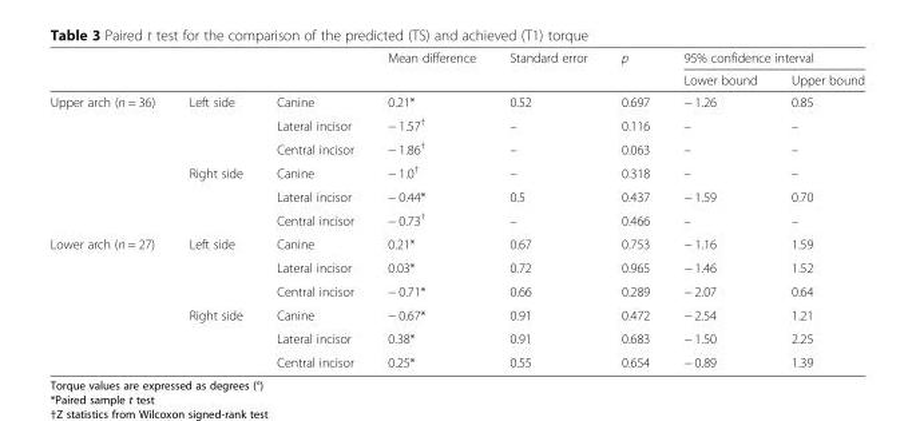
<table><thead><tr><td rowspan="2"></td><td rowspan="2"></td><td rowspan="2"></td><td rowspan="2">Mean difference</td><td rowspan="2">Standard error</td><td rowspan="2">p</td><td colspan="2">95% confidence interval</td></tr><tr><td>Lower bound</td><td>Upper bound</td></tr></thead><tbody><tr><td rowspan="6">Upper arch (n = 36)</td><td rowspan="3">Left side</td><td>Canine</td><td>0.21*</td><td>0.52</td><td>0.697</td><td>− 1.26</td><td>0.85</td></tr><tr><td>Lateral incisor</td><td>− 1.57<sup>†</sup></td><td>–</td><td>0.116</td><td>–</td><td>–</td></tr><tr><td>Central incisor</td><td>− 1.86<sup>†</sup></td><td>–</td><td>0.063</td><td>–</td><td>–</td></tr><tr><td rowspan="3">Right side</td><td>Canine</td><td>− 1.0<sup>†</sup></td><td>–</td><td>0.318</td><td>–</td><td>–</td></tr><tr><td>Lateral incisor</td><td>− 0.44*</td><td>0.5</td><td>0.437</td><td>− 1.59</td><td>0.70</td></tr><tr><td>Central incisor</td><td>− 0.73<sup>†</sup></td><td>–</td><td>0.466</td><td>–</td><td>–</td></tr><tr><td rowspan="6">Lower arch (n = 27)</td><td rowspan="3">Left side</td><td>Canine</td><td>0.21*</td><td>0.67</td><td>0.753</td><td>− 1.16</td><td>1.59</td></tr><tr><td>Lateral incisor</td><td>0.03*</td><td>0.72</td><td>0.965</td><td>− 1.46</td><td>1.52</td></tr><tr><td>Central incisor</td><td>− 0.71*</td><td>0.66</td><td>0.289</td><td>− 2.07</td><td>0.64</td></tr><tr><td rowspan="3">Right side</td><td>Canine</td><td>− 0.67*</td><td>0.91</td><td>0.472</td><td>− 2.54</td><td>1.21</td></tr><tr><td>Lateral incisor</td><td>0.38*</td><td>0.91</td><td>0.683</td><td>− 1.50</td><td>2.25</td></tr><tr><td>Central incisor</td><td>0.25*</td><td>0.55</td><td>0.654</td><td>− 0.89</td><td>1.39</td></tr></tbody></table>